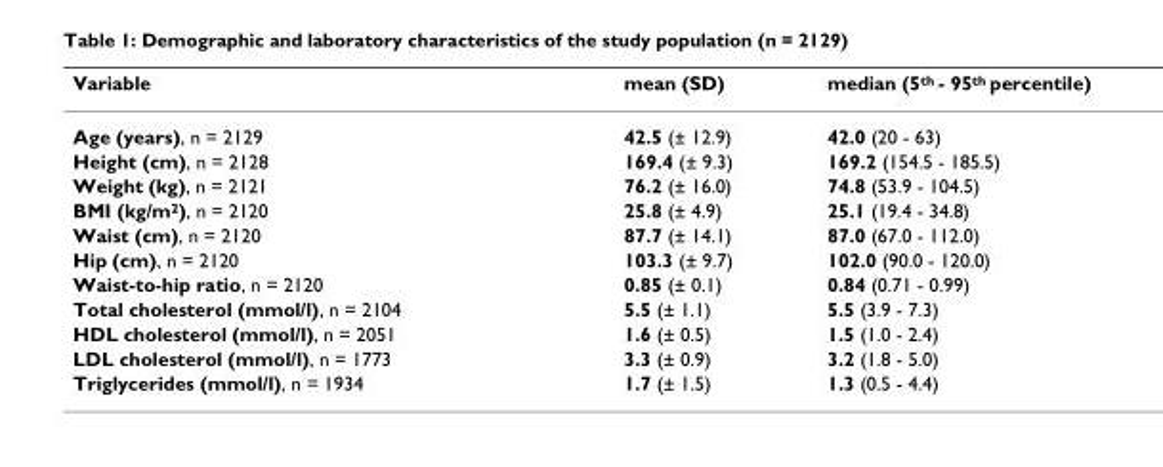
<table><thead><tr><td>Variable</td><td>mean (SD)</td><td>median (5<sup>th</sup> - 95<sup>th</sup> percentile)</td></tr></thead><tbody><tr><td>Age (years), n = 2129</td><td>42.5 (± 12.9)</td><td>42.0 (20 - 63)</td></tr><tr><td>Height (cm), n = 2128</td><td>169.4 (± 9.3)</td><td>169.2 (154.5 - 185.5)</td></tr><tr><td>Weight (kg), n = 2121</td><td>76.2 (± 16.0)</td><td>74.8 (53.9 - 104.5)</td></tr><tr><td>BMI (kg/m<sup>2</sup>), n = 2120</td><td>25.8 (± 4.9)</td><td>25.1 (19.4 - 34.8)</td></tr><tr><td>Waist (cm), n = 2120</td><td>87.7 (± 14.1)</td><td>87.0 (67.0 - 112.0)</td></tr><tr><td>Hip (cm), n = 2120</td><td>103.3 (± 9.7)</td><td>102.0 (90.0 - 120.0)</td></tr><tr><td>Waist-to-hip ratio, n = 2120</td><td>0.85 (± 0.1)</td><td>0.84 (0.71 - 0.99)</td></tr><tr><td>Total cholesterol (mmol/l), n = 2104</td><td>5.5 (± 1.1)</td><td>5.5 (3.9 - 7.3)</td></tr><tr><td>HDL cholesterol (mmol/l), n = 2051</td><td>1.6 (± 0.5)</td><td>1.5 (1.0 - 2.4)</td></tr><tr><td>LDL cholesterol (mmol/l), n = 1773</td><td>3.3 (± 0.9)</td><td>3.2 (1.8 - 5.0)</td></tr><tr><td>Triglycerides (mmol/l), n = 1934</td><td>1.7 (± 1.5)</td><td>1.3 (0.5 - 4.4)</td></tr></tbody></table>